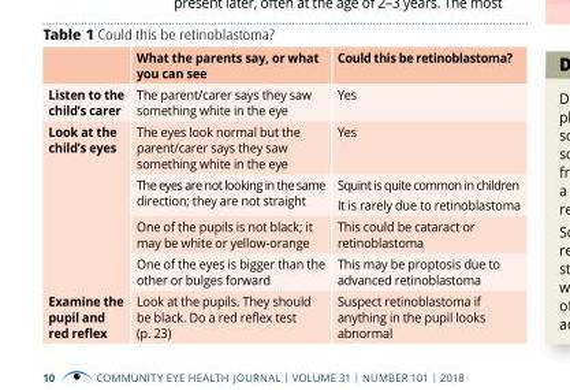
<table><thead><tr><td></td><td>What the parents say, or what you can see</td><td>Could this be retinoblastoma?</td></tr></thead><tbody><tr><td>Listen to the child’s carer</td><td>The parent/carer says they saw something white in the eye</td><td>Yes</td></tr><tr><td rowspan="4">Look at the child’s eyes</td><td>The eyes look normal but the parent/carer says they saw something white in the eye</td><td>Yes</td></tr><tr><td>The eyes are not looking in the same direction; they are not straight</td><td>Squint is quite common in children It is rarely due to retinoblastoma</td></tr><tr><td>One of the pupils is not black; it may be white or yellow-orange</td><td>This could be cataract or retinoblastoma</td></tr><tr><td>One of the eyes is bigger than the other or bulges forward</td><td>This may be proptosis due to advanced retinoblastoma</td></tr><tr><td>Examine the pupil and red refl ex</td><td>Look at the pupils. They should be black. Do a red refl ex test (p. 23)</td><td>Suspect retinoblastoma if anything in the pupil looks abnormal</td></tr></tbody></table>